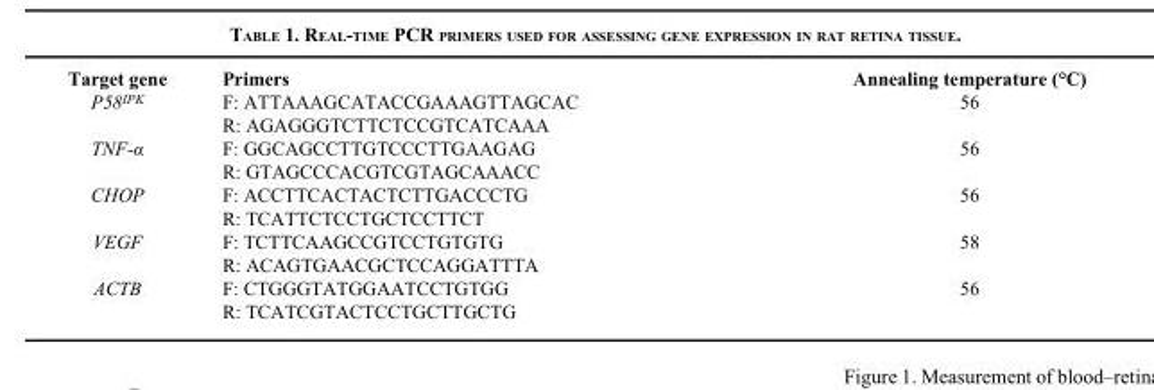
<table><thead><tr><td>Target gene</td><td>Primers</td><td>Annealing temperature (°C)</td></tr></thead><tbody><tr><td rowspan="2">P58<sup>IPK</sup></td><td>F: ATTAAAGCATACCGAAAGTTAGCAC</td><td>56</td></tr><tr><td>R: AGAGGGTCTTCTCCGTCATCAAA</td><td></td></tr><tr><td rowspan="2">TNF-α</td><td>F: GGCAGCCTTGTCCCTTGAAGAG</td><td>56</td></tr><tr><td>R: GTAGCCCACGTCGTAGCAAACC</td><td></td></tr><tr><td rowspan="2">CHOP</td><td>F: ACCTTCACTACTCTTGACCCTG</td><td>56</td></tr><tr><td>R: TCATTCTCCTGCTCCTTCT</td><td></td></tr><tr><td rowspan="2">VEGF</td><td>F: TCTTCAAGCCGTCCTGTGTG</td><td>58</td></tr><tr><td>R: ACAGTGAACGCTCCAGGATTTA</td><td></td></tr><tr><td rowspan="2">ACTB</td><td>F: CTGGGTATGGAATCCTGTGG</td><td>56</td></tr><tr><td>R: TCATCGTACTCCTGCTTGCTG</td><td></td></tr></tbody></table>